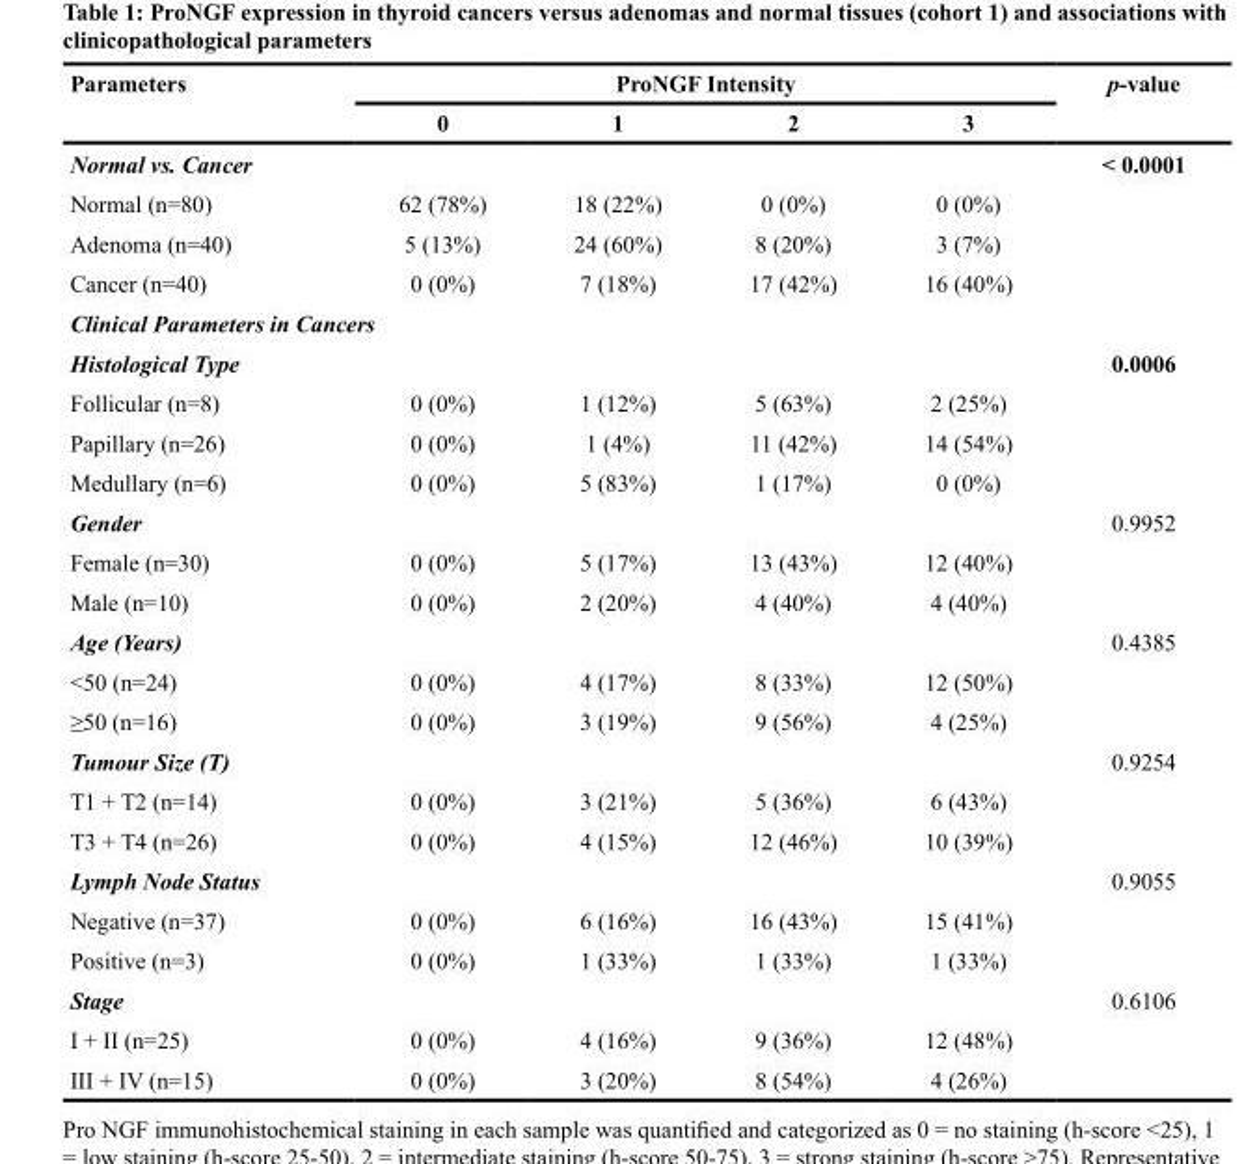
<table><thead><tr><td rowspan="2">Parameters</td><td colspan="4">ProNGF Intensity</td><td rowspan="2">p-value</td></tr><tr><td>0</td><td>1</td><td>2</td><td>3</td></tr></thead><tbody><tr><td>Normal vs. Cancer</td><td></td><td></td><td></td><td></td><td>&lt; 0.0001</td></tr><tr><td>Normal (n=80)</td><td>62 (78%)</td><td>18 (22%)</td><td>0 (0%)</td><td>0 (0%)</td><td></td></tr><tr><td>Adenoma (n=40)</td><td>5 (13%)</td><td>24 (60%)</td><td>8 (20%)</td><td>3 (7%)</td><td></td></tr><tr><td>Cancer (n=40)</td><td>0 (0%)</td><td>7 (18%)</td><td>17 (42%)</td><td>16 (40%)</td><td></td></tr><tr><td colspan="6">Clinical Parameters in Cancers</td></tr><tr><td>Histological Type</td><td></td><td></td><td></td><td></td><td>0.0006</td></tr><tr><td>Follicular (n=8)</td><td>0 (0%)</td><td>1 (12%)</td><td>5 (63%)</td><td>2 (25%)</td><td></td></tr><tr><td>Papillary (n=26)</td><td>0 (0%)</td><td>1 (4%)</td><td>11 (42%)</td><td>14 (54%)</td><td></td></tr><tr><td>Medullary (n=6)</td><td>0 (0%)</td><td>5 (83%)</td><td>1 (17%)</td><td>0 (0%)</td><td></td></tr><tr><td>Gender</td><td></td><td></td><td></td><td></td><td>0.9952</td></tr><tr><td>Female (n=30)</td><td>0 (0%)</td><td>5 (17%)</td><td>13 (43%)</td><td>12 (40%)</td><td></td></tr><tr><td>Male (n=10)</td><td>0 (0%)</td><td>2 (20%)</td><td>4 (40%)</td><td>4 (40%)</td><td></td></tr><tr><td>Age (Years)</td><td></td><td></td><td></td><td></td><td>0.4385</td></tr><tr><td>&lt;50 (n=24)</td><td>0 (0%)</td><td>4 (17%)</td><td>8 (33%)</td><td>12 (50%)</td><td></td></tr><tr><td>≥50 (n=16)</td><td>0 (0%)</td><td>3 (19%)</td><td>9 (56%)</td><td>4 (25%)</td><td></td></tr><tr><td>Tumour Size (T)</td><td></td><td></td><td></td><td></td><td>0.9254</td></tr><tr><td>T1 + T2 (n=14)</td><td>0 (0%)</td><td>3 (21%)</td><td>5 (36%)</td><td>6 (43%)</td><td></td></tr><tr><td>T3 + T4 (n=26)</td><td>0 (0%)</td><td>4 (15%)</td><td>12 (46%)</td><td>10 (39%)</td><td></td></tr><tr><td>Lymph Node Status</td><td></td><td></td><td></td><td></td><td>0.9055</td></tr><tr><td>Negative (n=37)</td><td>0 (0%)</td><td>6 (16%)</td><td>16 (43%)</td><td>15 (41%)</td><td></td></tr><tr><td>Positive (n=3)</td><td>0 (0%)</td><td>1 (33%)</td><td>1 (33%)</td><td>1 (33%)</td><td></td></tr><tr><td>Stage</td><td></td><td></td><td></td><td></td><td>0.6106</td></tr><tr><td>I + II (n=25)</td><td>0 (0%)</td><td>4 (16%)</td><td>9 (36%)</td><td>12 (48%)</td><td></td></tr><tr><td>III + IV (n=15)</td><td>0 (0%)</td><td>3 (20%)</td><td>8 (54%)</td><td>4 (26%)</td><td></td></tr></tbody></table>